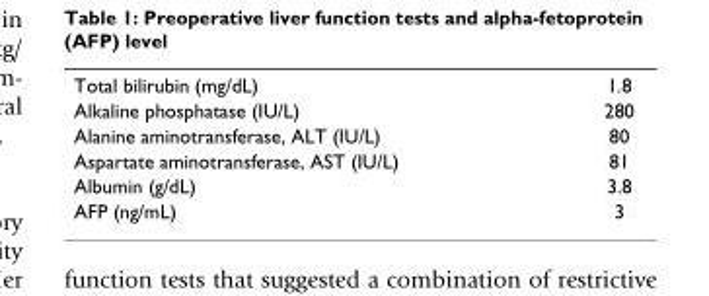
<table><tbody><tr><td>Total bilirubin (mg/dL)</td><td>1.8</td></tr><tr><td>Alkaline phosphatase (IU/L)</td><td>280</td></tr><tr><td>Alanine aminotransferase, ALT (IU/L)</td><td>80</td></tr><tr><td>Aspartate aminotransferase, AST (IU/L)</td><td>81</td></tr><tr><td>Albumin (g/dL)</td><td>3.8</td></tr><tr><td>AFP (ng/mL)</td><td>3</td></tr></tbody></table>